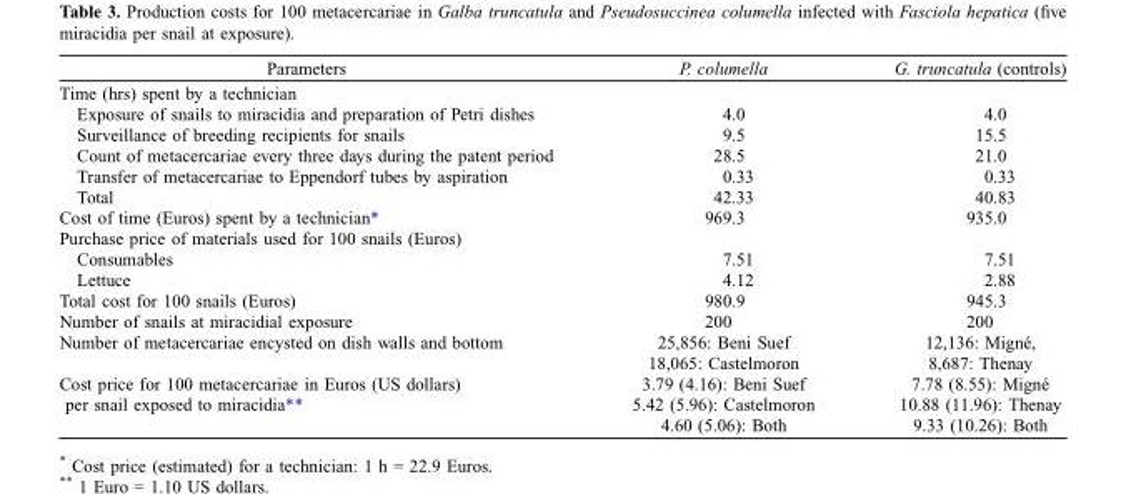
<table><thead><tr><td>Parameters</td><td>P. columella</td><td>G. truncatula (controls)</td></tr></thead><tbody><tr><td colspan="3">Time (hrs) spent by a technician</td></tr><tr><td>Exposure of snails to miracidia and preparation of Petri dishes</td><td>4.0</td><td>4.0</td></tr><tr><td>Surveillance of breeding recipients for snails</td><td>9.5</td><td>15.5</td></tr><tr><td>Count of metacercariae every three days during the patent period</td><td>28.5</td><td>21.0</td></tr><tr><td>Transfer of metacercariae to Eppendorf tubes by aspiration</td><td>0.33</td><td>0.33</td></tr><tr><td>Total</td><td>42.33</td><td>40.83</td></tr><tr><td>Cost of time (Euros) spent by a technician*</td><td>969.3</td><td>935.0</td></tr><tr><td colspan="3">Purchase price of materials used for 100 snails (Euros)</td></tr><tr><td>Consumables</td><td>7.51</td><td>7.51</td></tr><tr><td>Lettuce</td><td>4.12</td><td>2.88</td></tr><tr><td>Total cost for 100 snails (Euros)</td><td>980.9</td><td>945.3</td></tr><tr><td>Number of snails at miracidial exposure</td><td>200</td><td>200</td></tr><tr><td rowspan="2">Number of metacercariae encysted on dish walls and bottom</td><td>25,856: Beni Suef</td><td>12,136: Migné,</td></tr><tr><td>18,065: Castelmoron</td><td>8,687: Thenay</td></tr><tr><td rowspan="3">Cost price for 100 metacercariae in Euros (US dollars) per snail exposed to miracidia**</td><td>3.79 (4.16): Beni Suef</td><td>7.78 (8.55): Migné</td></tr><tr><td>5.42 (5.96): Castelmoron</td><td>10.88 (11.96): Thenay</td></tr><tr><td>4.60 (5.06): Both</td><td>9.33 (10.26): Both</td></tr></tbody></table>